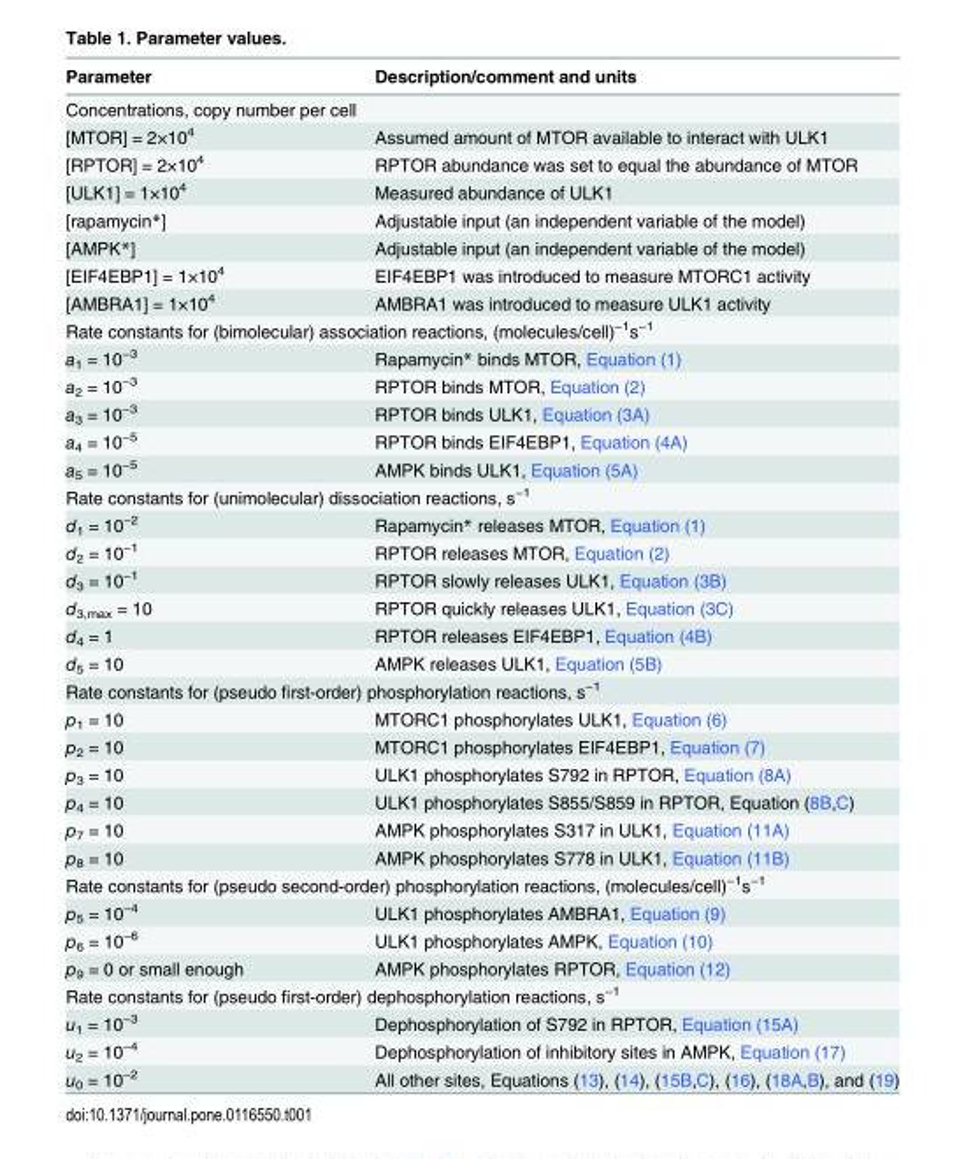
<table><thead><tr><td>Parameter</td><td>Description/comment and units</td></tr></thead><tbody><tr><td colspan="2">Concentrations, copy number per cell</td></tr><tr><td>[MTOR] = 2×10<sup>4</sup></td><td>Assumed amount of MTOR available to interact with ULK1</td></tr><tr><td>[RPTOR] = 2×10<sup>4</sup></td><td>RPTOR abundance was set to equal the abundance of MTOR</td></tr><tr><td>[ULK1] = 1×10<sup>4</sup></td><td>Measured abundance of ULK1</td></tr><tr><td>[rapamycin*]</td><td>Adjustable input (an independent variable of the model)</td></tr><tr><td>[AMPK*]</td><td>Adjustable input (an independent variable of the model)</td></tr><tr><td>[EIF4EBP1] = 1×10<sup>4</sup></td><td>EIF4EBP1 was introduced to measure MTORC1 activity</td></tr><tr><td>[AMBRA1] = 1×10<sup>4</sup></td><td>AMBRA1 was introduced to measure ULK1 activity</td></tr><tr><td colspan="2">Rate constants for (bimolecular) association reactions, (molecules/cell)<sup>−1</sup>s<sup>−1</sup></td></tr><tr><td>a<sub>1</sub> = 10<sup>−3</sup></td><td>Rapamycin* binds MTOR, Equation (1)</td></tr><tr><td>a<sub>2</sub> = 10<sup>−3</sup></td><td>RPTOR binds MTOR, Equation (2)</td></tr><tr><td>a<sub>3</sub> = 10<sup>−3</sup></td><td>RPTOR binds ULK1, Equation (3A)</td></tr><tr><td>a<sub>4</sub> = 10<sup>−5</sup></td><td>RPTOR binds EIF4EBP1, Equation (4A)</td></tr><tr><td>a<sub>5</sub> = 10<sup>−5</sup></td><td>AMPK binds ULK1, Equation (5A)</td></tr><tr><td colspan="2">Rate constants for (unimolecular) dissociation reactions, s<sup>−1</sup></td></tr><tr><td>d<sub>1</sub> = 10<sup>−2</sup></td><td>Rapamycin* releases MTOR, Equation (1)</td></tr><tr><td>d<sub>2</sub> = 10<sup>−1</sup></td><td>RPTOR releases MTOR, Equation (2)</td></tr><tr><td>d<sub>3</sub> = 10<sup>−1</sup></td><td>RPTOR slowly releases ULK1, Equation (3B)</td></tr><tr><td>d<sub>3,max</sub> = 10</td><td>RPTOR quickly releases ULK1, Equation (3C)</td></tr><tr><td>d<sub>4</sub> = 1</td><td>RPTOR releases EIF4EBP1, Equation (4B)</td></tr><tr><td>d<sub>5</sub> = 10</td><td>AMPK releases ULK1, Equation (5B)</td></tr><tr><td colspan="2">Rate constants for (pseudo first-order) phosphorylation reactions, s<sup>−1</sup></td></tr><tr><td>p<sub>1</sub> = 10</td><td>MTORC1 phosphorylates ULK1, Equation (6)</td></tr><tr><td>p<sub>2</sub> = 10</td><td>MTORC1 phosphorylates EIF4EBP1, Equation (7)</td></tr><tr><td>p<sub>3</sub> = 10</td><td>ULK1 phosphorylates S792 in RPTOR, Equation (8A)</td></tr><tr><td>p<sub>4</sub> = 10</td><td>ULK1 phosphorylates S855/S859 in RPTOR, Equation (8B,C)</td></tr><tr><td>p<sub>7</sub> = 10</td><td>AMPK phosphorylates S317 in ULK1, Equation (11A)</td></tr><tr><td>p<sub>8</sub> = 10</td><td>AMPK phosphorylates S778 in ULK1, Equation (11B)</td></tr><tr><td colspan="2">Rate constants for (pseudo second-order) phosphorylation reactions, (molecules/cell)<sup>−1</sup>s<sup>−1</sup></td></tr><tr><td>p<sub>5</sub> = 10<sup>−4</sup></td><td>ULK1 phosphorylates AMBRA1, Equation (9)</td></tr><tr><td>p<sub>6</sub> = 10<sup>−6</sup></td><td>ULK1 phosphorylates AMPK, Equation (10)</td></tr><tr><td>p<sub>9</sub> = 0 or small enough</td><td>AMPK phosphorylates RPTOR, Equation (12)</td></tr><tr><td colspan="2">Rate constants for (pseudo first-order) dephosphorylation reactions, s<sup>−1</sup></td></tr><tr><td>u<sub>1</sub> = 10<sup>−3</sup></td><td>Dephosphorylation of S792 in RPTOR, Equation (15A)</td></tr><tr><td>u<sub>2</sub> = 10<sup>−4</sup></td><td>Dephosphorylation of inhibitory sites in AMPK, Equation (17)</td></tr><tr><td>u<sub>0</sub> = 10<sup>−2</sup></td><td>All other sites, Equations (13), (14), (15B,C), (16), (18A,B), and (19)</td></tr></tbody></table>